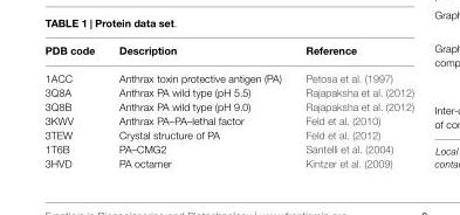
<table><thead><tr><td>PDB code</td><td>Description</td><td>Reference</td></tr></thead><tbody><tr><td>1ACC</td><td>Anthrax toxin protective antigen (PA)</td><td>Petosa et al. (1997)</td></tr><tr><td>3Q8A</td><td>Anthrax PA wild type (pH 5.5)</td><td>Rajapaksha et al. (2012)</td></tr><tr><td>3Q8B</td><td>Anthrax PA wild type (pH 9.0)</td><td>Rajapaksha et al. (2012)</td></tr><tr><td>3KWV</td><td>Anthrax PA–PA–lethal factor</td><td>Feld et al. (2010)</td></tr><tr><td>3TEW</td><td>Crystal structure of PA</td><td>Feld et al. (2012)</td></tr><tr><td>1T6B</td><td>PA–CMG2</td><td>Santelli et al. (2004)</td></tr><tr><td>3HVD</td><td>PA octamer</td><td>Kintzer et al. (2009)</td></tr></tbody></table>